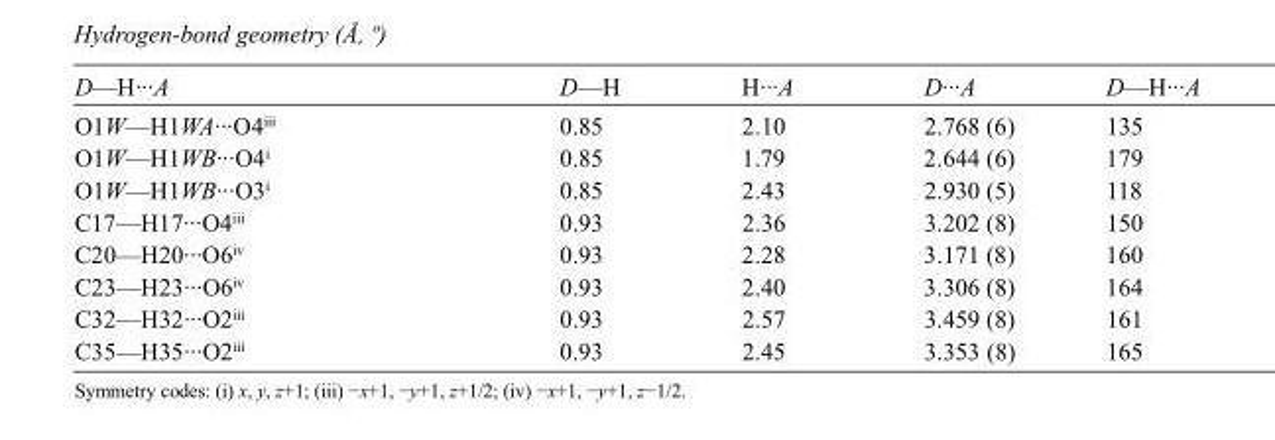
<table><tbody><tr><td>D—H···A</td><td>D—H</td><td>H···A</td><td>D···A</td><td>D—H···A</td></tr><tr><td>O1W—H1WA···O4<sup>iii</sup></td><td>0.85</td><td>2.10</td><td>2.768 (6)</td><td>135</td></tr><tr><td>O1W—H1WB···O4<sup>i</sup></td><td>0.85</td><td>1.79</td><td>2.644 (6)</td><td>179</td></tr><tr><td>O1W—H1WB···O3<sup>i</sup></td><td>0.85</td><td>2.43</td><td>2.930 (5)</td><td>118</td></tr><tr><td>C17—H17···O4<sup>iii</sup></td><td>0.93</td><td>2.36</td><td>3.202 (8)</td><td>150</td></tr><tr><td>C20—H20···O6<sup>iv</sup></td><td>0.93</td><td>2.28</td><td>3.171 (8)</td><td>160</td></tr><tr><td>C23—H23···O6<sup>iv</sup></td><td>0.93</td><td>2.40</td><td>3.306 (8)</td><td>164</td></tr><tr><td>C32—H32···O2<sup>iii</sup></td><td>0.93</td><td>2.57</td><td>3.459 (8)</td><td>161</td></tr><tr><td>C35—H35···O2<sup>iii</sup></td><td>0.93</td><td>2.45</td><td>3.353 (8)</td><td>165</td></tr></tbody></table>